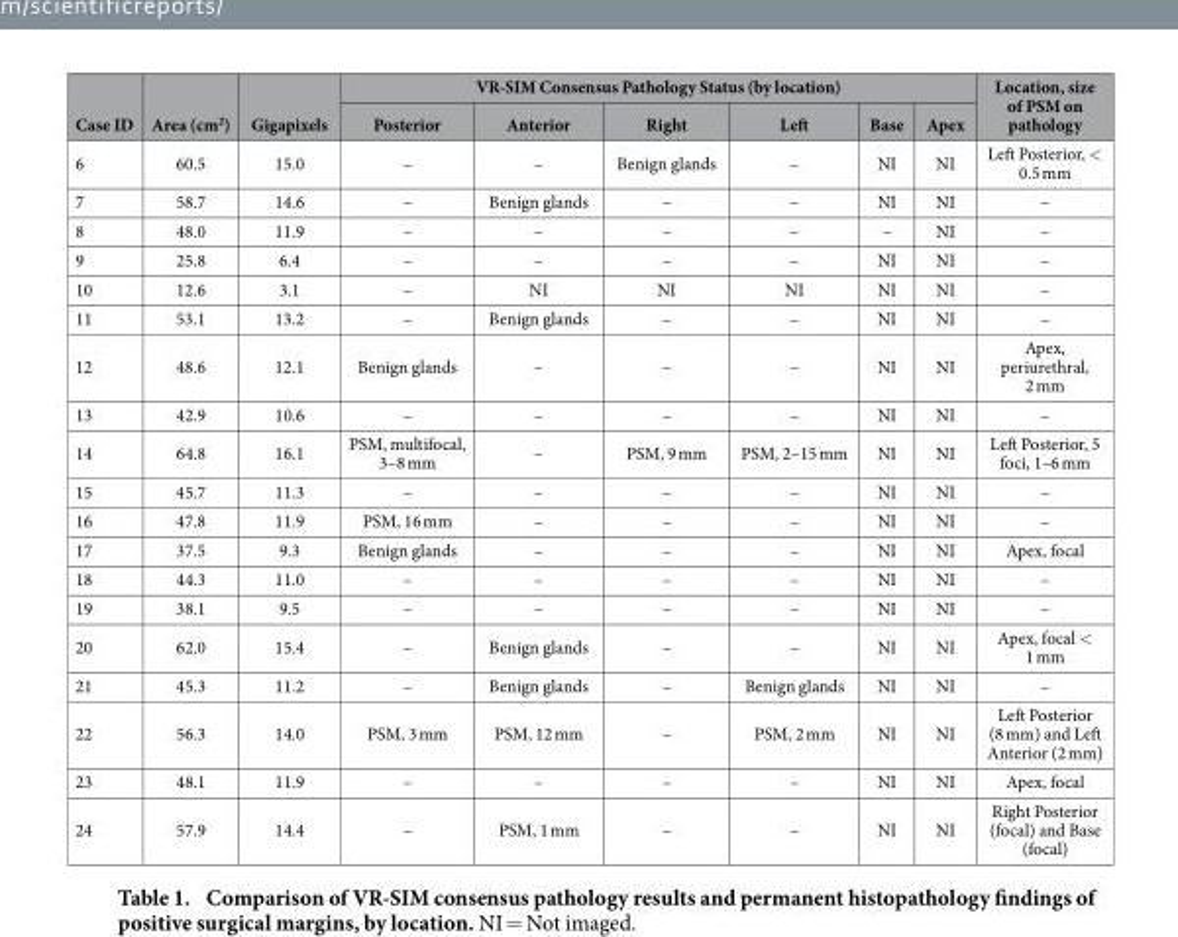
<table><thead><tr><td rowspan="2">Case ID</td><td rowspan="2">Area (cm<sup>2</sup>)</td><td rowspan="2">Gigapixels</td><td colspan="6">VR-SIM Consensus Pathology Status (by location)</td><td rowspan="2">Location, size of PSM on pathology</td></tr><tr><td>Posterior</td><td>Anterior</td><td>Right</td><td>Left</td><td>Base</td><td>Apex</td></tr></thead><tbody><tr><td>6</td><td>60.5</td><td>15.0</td><td>–</td><td>–</td><td>Benign glands</td><td>–</td><td>NI</td><td>NI</td><td>Left Posterior, &lt; 0.5 mm</td></tr><tr><td>7</td><td>58.7</td><td>14.6</td><td>–</td><td>Benign glands</td><td>–</td><td>–</td><td>NI</td><td>NI</td><td>–</td></tr><tr><td>8</td><td>48.0</td><td>11.9</td><td>–</td><td>–</td><td>–</td><td>–</td><td>–</td><td>NI</td><td>–</td></tr><tr><td>9</td><td>25.8</td><td>6.4</td><td>–</td><td>–</td><td>–</td><td>–</td><td>NI</td><td>NI</td><td>–</td></tr><tr><td>10</td><td>12.6</td><td>3.1</td><td>–</td><td>NI</td><td>NI</td><td>NI</td><td>NI</td><td>NI</td><td>–</td></tr><tr><td>11</td><td>53.1</td><td>13.2</td><td>–</td><td>Benign glands</td><td>–</td><td>–</td><td>NI</td><td>NI</td><td>–</td></tr><tr><td>12</td><td>48.6</td><td>12.1</td><td>Benign glands</td><td>–</td><td>–</td><td>–</td><td>NI</td><td>NI</td><td>Apex, periurethral, 2 mm</td></tr><tr><td>13</td><td>42.9</td><td>10.6</td><td>–</td><td>–</td><td>–</td><td>–</td><td>NI</td><td>NI</td><td>–</td></tr><tr><td>14</td><td>64.8</td><td>16.1</td><td>PSM, multifocal, 3–8 mm</td><td>–</td><td>PSM, 9 mm</td><td>PSM, 2–15 mm</td><td>NI</td><td>NI</td><td>Left Posterior, 5 foci, 1–6 mm</td></tr><tr><td>15</td><td>45.7</td><td>11.3</td><td>–</td><td>–</td><td>–</td><td>–</td><td>NI</td><td>NI</td><td>–</td></tr><tr><td>16</td><td>47.8</td><td>11.9</td><td>PSM, 16 mm</td><td>–</td><td>–</td><td>–</td><td>NI</td><td>NI</td><td>–</td></tr><tr><td>17</td><td>37.5</td><td>9.3</td><td>Benign glands</td><td>–</td><td>–</td><td>–</td><td>NI</td><td>NI</td><td>Apex, focal</td></tr><tr><td>18</td><td>44.3</td><td>11.0</td><td>–</td><td>–</td><td>–</td><td>–</td><td>NI</td><td>NI</td><td>–</td></tr><tr><td>19</td><td>38.1</td><td>9.5</td><td>–</td><td>–</td><td>–</td><td>–</td><td>NI</td><td>NI</td><td>–</td></tr><tr><td>20</td><td>62.0</td><td>15.4</td><td>–</td><td>Benign glands</td><td>–</td><td>–</td><td>NI</td><td>NI</td><td>Apex, focal &lt; 1 mm</td></tr><tr><td>21</td><td>45.3</td><td>11.2</td><td>–</td><td>Benign glands</td><td>–</td><td>Benign glands</td><td>NI</td><td>NI</td><td>–</td></tr><tr><td>22</td><td>56.3</td><td>14.0</td><td>PSM, 3 mm</td><td>PSM, 12 mm</td><td>–</td><td>PSM, 2 mm</td><td>NI</td><td>NI</td><td>Left Posterior (8 mm) and Left Anterior (2 mm)</td></tr><tr><td>23</td><td>48.1</td><td>11.9</td><td>–</td><td>–</td><td>–</td><td>–</td><td>NI</td><td>NI</td><td>Apex, focal</td></tr><tr><td>24</td><td>57.9</td><td>14.4</td><td>–</td><td>PSM, 1 mm</td><td>–</td><td>–</td><td>NI</td><td>NI</td><td>Right Posterior (focal) and Base (focal)</td></tr></tbody></table>